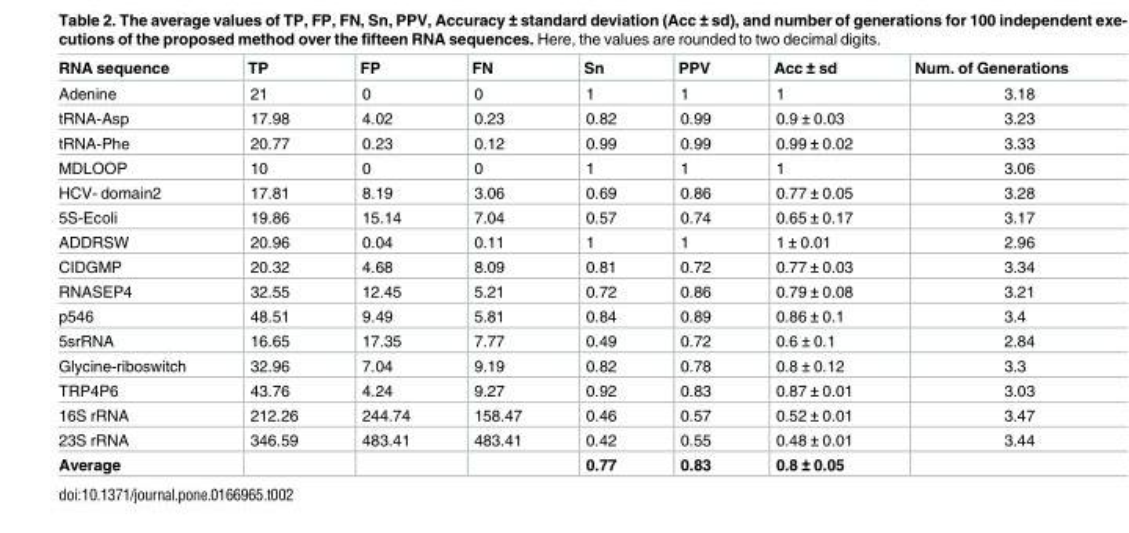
<table><thead><tr><td>RNA sequence</td><td>TP</td><td>FP</td><td>FN</td><td>Sn</td><td>PPV</td><td>Acc ± sd</td><td>Num. of Generations</td></tr></thead><tbody><tr><td>Adenine</td><td>21</td><td>0</td><td>0</td><td>1</td><td>1</td><td>1</td><td>3.18</td></tr><tr><td>tRNA-Asp</td><td>17.98</td><td>4.02</td><td>0.23</td><td>0.82</td><td>0.99</td><td>0.9 ± 0.03</td><td>3.23</td></tr><tr><td>tRNA-Phe</td><td>20.77</td><td>0.23</td><td>0.12</td><td>0.99</td><td>0.99</td><td>0.99 ± 0.02</td><td>3.33</td></tr><tr><td>MDLOOP</td><td>10</td><td>0</td><td>0</td><td>1</td><td>1</td><td>1</td><td>3.06</td></tr><tr><td>HCV- domain2</td><td>17.81</td><td>8.19</td><td>3.06</td><td>0.69</td><td>0.86</td><td>0.77 ± 0.05</td><td>3.28</td></tr><tr><td>5S-Ecoli</td><td>19.86</td><td>15.14</td><td>7.04</td><td>0.57</td><td>0.74</td><td>0.65 ± 0.17</td><td>3.17</td></tr><tr><td>ADDRSW</td><td>20.96</td><td>0.04</td><td>0.11</td><td>1</td><td>1</td><td>1 ± 0.01</td><td>2.96</td></tr><tr><td>CIDGMP</td><td>20.32</td><td>4.68</td><td>8.09</td><td>0.81</td><td>0.72</td><td>0.77 ± 0.03</td><td>3.34</td></tr><tr><td>RNASEP4</td><td>32.55</td><td>12.45</td><td>5.21</td><td>0.72</td><td>0.86</td><td>0.79 ± 0.08</td><td>3.21</td></tr><tr><td>p546</td><td>48.51</td><td>9.49</td><td>5.81</td><td>0.84</td><td>0.89</td><td>0.86 ± 0.1</td><td>3.4</td></tr><tr><td>5srRNA</td><td>16.65</td><td>17.35</td><td>7.77</td><td>0.49</td><td>0.72</td><td>0.6 ± 0.1</td><td>2.84</td></tr><tr><td>Glycine-riboswitch</td><td>32.96</td><td>7.04</td><td>9.19</td><td>0.82</td><td>0.78</td><td>0.8 ± 0.12</td><td>3.3</td></tr><tr><td>TRP4P6</td><td>43.76</td><td>4.24</td><td>9.27</td><td>0.92</td><td>0.83</td><td>0.87 ± 0.01</td><td>3.03</td></tr><tr><td>16S rRNA</td><td>212.26</td><td>244.74</td><td>158.47</td><td>0.46</td><td>0.57</td><td>0.52 ± 0.01</td><td>3.47</td></tr><tr><td>23S rRNA</td><td>346.59</td><td>483.41</td><td>483.41</td><td>0.42</td><td>0.55</td><td>0.48 ± 0.01</td><td>3.44</td></tr><tr><td>Average</td><td></td><td></td><td></td><td>0.77</td><td>0.83</td><td>0.8 ± 0.05</td><td></td></tr></tbody></table>